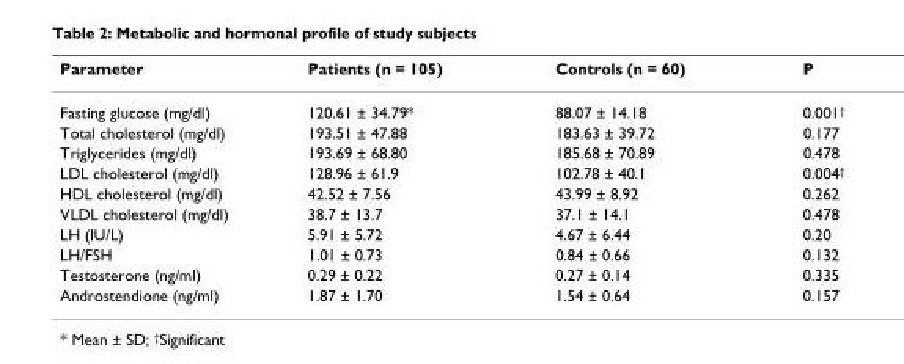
<table><thead><tr><td>Parameter</td><td>Patients (n = 105)</td><td>Controls (n = 60)</td><td>P</td></tr></thead><tbody><tr><td>Fasting glucose (mg/dl)</td><td>120.61 ± 34.79*</td><td>88.07 ± 14.18</td><td>0.001<sup>†</sup></td></tr><tr><td>Total cholesterol (mg/dl)</td><td>193.51 ± 47.88</td><td>183.63 ± 39.72</td><td>0.177</td></tr><tr><td>Triglycerides (mg/dl)</td><td>193.69 ± 68.80</td><td>185.68 ± 70.89</td><td>0.478</td></tr><tr><td>LDL cholesterol (mg/dl)</td><td>128.96 ± 61.9</td><td>102.78 ± 40.1</td><td>0.004<sup>†</sup></td></tr><tr><td>HDL cholesterol (mg/dl)</td><td>42.52 ± 7.56</td><td>43.99 ± 8.92</td><td>0.262</td></tr><tr><td>VLDL cholesterol (mg/dl)</td><td>38.7 ± 13.7</td><td>37.1 ± 14.1</td><td>0.478</td></tr><tr><td>LH (IU/L)</td><td>5.91 ± 5.72</td><td>4.67 ± 6.44</td><td>0.20</td></tr><tr><td>LH/FSH</td><td>1.01 ± 0.73</td><td>0.84 ± 0.66</td><td>0.132</td></tr><tr><td>Testosterone (ng/ml)</td><td>0.29 ± 0.22</td><td>0.27 ± 0.14</td><td>0.335</td></tr><tr><td>Androstendione (ng/ml)</td><td>1.87 ± 1.70</td><td>1.54 ± 0.64</td><td>0.157</td></tr></tbody></table>